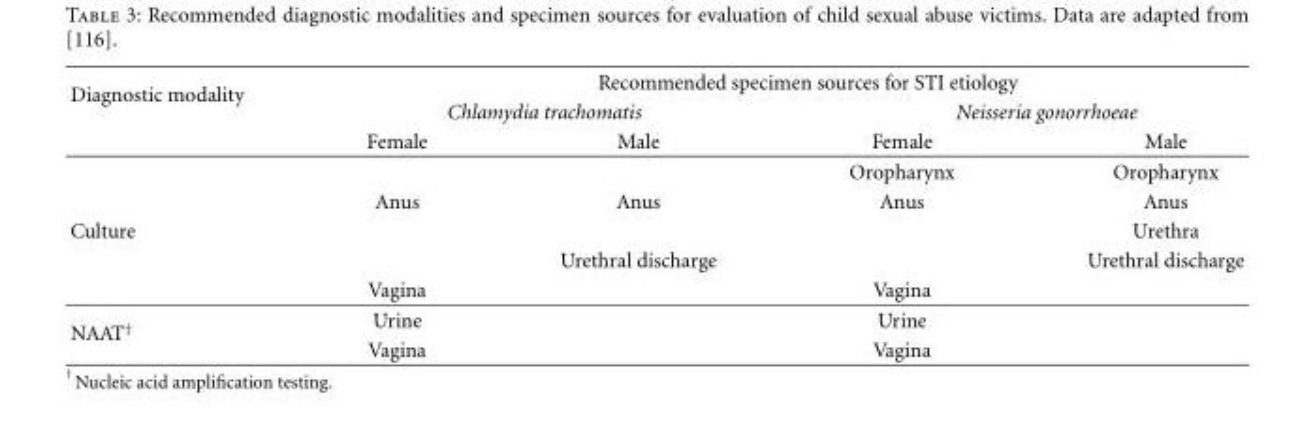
<table><thead><tr><td rowspan="3">Diagnostic modality</td><td colspan="4">Recommended specimen sources for STI etiology</td></tr><tr><td colspan="2">Chlamydia trachomatis</td><td colspan="2">Neisseria gonorrhoeae</td></tr><tr><td>Female</td><td>Male</td><td>Female</td><td>Male</td></tr></thead><tbody><tr><td></td><td></td><td></td><td>Oropharynx</td><td>Oropharynx</td></tr><tr><td></td><td>Anus</td><td>Anus</td><td>Anus</td><td>Anus</td></tr><tr><td rowspan="3">Culture</td><td></td><td></td><td></td><td>Urethra</td></tr><tr><td></td><td>Urethral discharge</td><td></td><td>Urethral discharge</td></tr><tr><td>Vagina</td><td></td><td>Vagina</td><td></td></tr><tr><td rowspan="2">NAAT<sup>†</sup></td><td>Urine</td><td></td><td>Urine</td><td></td></tr><tr><td>Vagina</td><td></td><td>Vagina</td><td></td></tr></tbody></table>